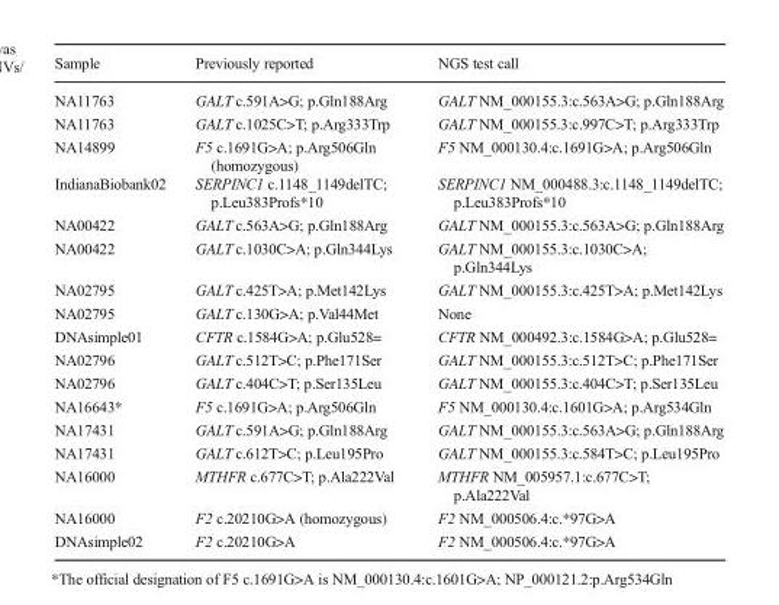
<table><thead><tr><td>Sample</td><td>Previously reported</td><td>NGS test call</td></tr></thead><tbody><tr><td>NA11763</td><td>GALT c.591A&gt;G; p.Gln188Arg</td><td>GALT NM_000155.3:c.563A&gt;G; p.Gln188Arg</td></tr><tr><td>NA11763</td><td>GALT c.1025C&gt;T; p.Arg333Trp</td><td>GALT NM_000155.3:c.997C&gt;T; p.Arg333Trp</td></tr><tr><td>NA14899</td><td>F5 c.1691G&gt;A; p.Arg506Gln (homozygous)</td><td>F5 NM_000130.4:c.1691G&gt;A; p.Arg506Gln</td></tr><tr><td>IndianaBiobank02</td><td>SERPINC1 c.1148_1149delTC; p.Leu383Profs*10</td><td>SERPINC1 NM_000488.3:c.1148_1149delTC; p.Leu383Profs*10</td></tr><tr><td>NA00422</td><td>GALT c.563A&gt;G; p.Gln188Arg</td><td>GALT NM_000155.3:c.563A&gt;G; p.Gln188Arg</td></tr><tr><td>NA00422</td><td>GALT c.1030C&gt;A; p.Gln344Lys</td><td>GALT NM_000155.3:c.1030C&gt;A; p.Gln344Lys</td></tr><tr><td>NA02795</td><td>GALT c.425T&gt;A; p.Met142Lys</td><td>GALT NM_000155.3:c.425T&gt;A; p.Met142Lys</td></tr><tr><td>NA02795</td><td>GALT c.130G&gt;A; p.Val44Met</td><td>None</td></tr><tr><td>DNAsimple01</td><td>CFTR c.1584G&gt;A; p.Glu528=</td><td>CFTR NM_000492.3:c.1584G&gt;A; p.Glu528=</td></tr><tr><td>NA02796</td><td>GALT c.512T&gt;C; p.Phe171Ser</td><td>GALT NM_000155.3:c.512T&gt;C; p.Phe171Ser</td></tr><tr><td>NA02796</td><td>GALT c.404C&gt;T; p.Ser135Leu</td><td>GALT NM_000155.3:c.404C&gt;T; p.Ser135Leu</td></tr><tr><td>NA16643*</td><td>F5 c.1691G&gt;A; p.Arg506Gln</td><td>F5 NM_000130.4:c.1601G&gt;A; p.Arg534Gln</td></tr><tr><td>NA17431</td><td>GALT c.591A&gt;G; p.Gln188Arg</td><td>GALT NM_000155.3:c.563A&gt;G; p.Gln188Arg</td></tr><tr><td>NA17431</td><td>GALT c.612T&gt;C; p.Leu195Pro</td><td>GALT NM_000155.3:c.584T&gt;C; p.Leu195Pro</td></tr><tr><td>NA16000</td><td>MTHFR c.677C&gt;T; p.Ala222Val</td><td>MTHFR NM_005957.1:c.677C&gt;T; p.Ala222Val</td></tr><tr><td>NA16000</td><td>F2 c.20210G&gt;A (homozygous)</td><td>F2 NM_000506.4:c.*97G&gt;A</td></tr><tr><td>DNAsimple02</td><td>F2 c.20210G&gt;A</td><td>F2 NM_000506.4:c.*97G&gt;A</td></tr></tbody></table>